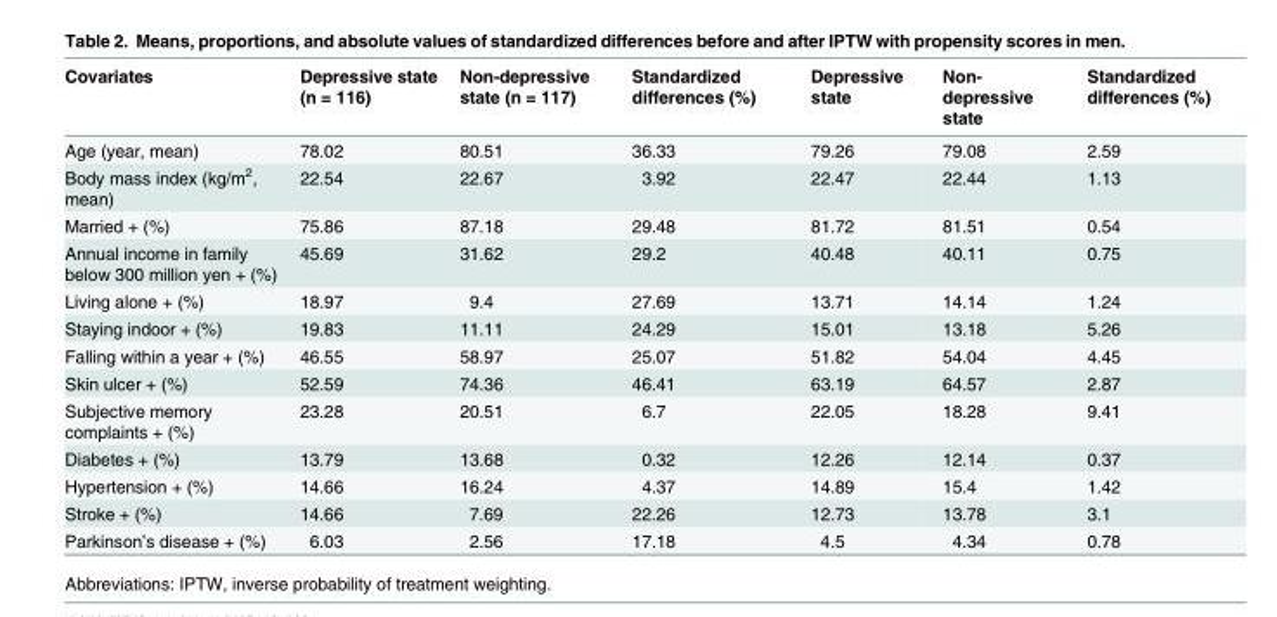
<table><thead><tr><td>Covariates</td><td>Depressive state (n = 116)</td><td>Non-depressive state (n = 117)</td><td>Standardized differences (%)</td><td>Depressive state</td><td>Non- depressive state</td><td>Standardized differences (%)</td></tr></thead><tbody><tr><td>Age (year, mean)</td><td>78.02</td><td>80.51</td><td>36.33</td><td>79.26</td><td>79.08</td><td>2.59</td></tr><tr><td>Body mass index (kg/m<sup>2</sup>, mean)</td><td>22.54</td><td>22.67</td><td>3.92</td><td>22.47</td><td>22.44</td><td>1.13</td></tr><tr><td>Married + (%)</td><td>75.86</td><td>87.18</td><td>29.48</td><td>81.72</td><td>81.51</td><td>0.54</td></tr><tr><td>Annual income in family below 300 million yen + (%)</td><td>45.69</td><td>31.62</td><td>29.2</td><td>40.48</td><td>40.11</td><td>0.75</td></tr><tr><td>Living alone + (%)</td><td>18.97</td><td>9.4</td><td>27.69</td><td>13.71</td><td>14.14</td><td>1.24</td></tr><tr><td>Staying indoor + (%)</td><td>19.83</td><td>11.11</td><td>24.29</td><td>15.01</td><td>13.18</td><td>5.26</td></tr><tr><td>Falling within a year + (%)</td><td>46.55</td><td>58.97</td><td>25.07</td><td>51.82</td><td>54.04</td><td>4.45</td></tr><tr><td>Skin ulcer + (%)</td><td>52.59</td><td>74.36</td><td>46.41</td><td>63.19</td><td>64.57</td><td>2.87</td></tr><tr><td>Subjective memory complaints + (%)</td><td>23.28</td><td>20.51</td><td>6.7</td><td>22.05</td><td>18.28</td><td>9.41</td></tr><tr><td>Diabetes + (%)</td><td>13.79</td><td>13.68</td><td>0.32</td><td>12.26</td><td>12.14</td><td>0.37</td></tr><tr><td>Hypertension + (%)</td><td>14.66</td><td>16.24</td><td>4.37</td><td>14.89</td><td>15.4</td><td>1.42</td></tr><tr><td>Stroke + (%)</td><td>14.66</td><td>7.69</td><td>22.26</td><td>12.73</td><td>13.78</td><td>3.1</td></tr><tr><td>Parkinson’s disease + (%)</td><td>6.03</td><td>2.56</td><td>17.18</td><td>4.5</td><td>4.34</td><td>0.78</td></tr></tbody></table>